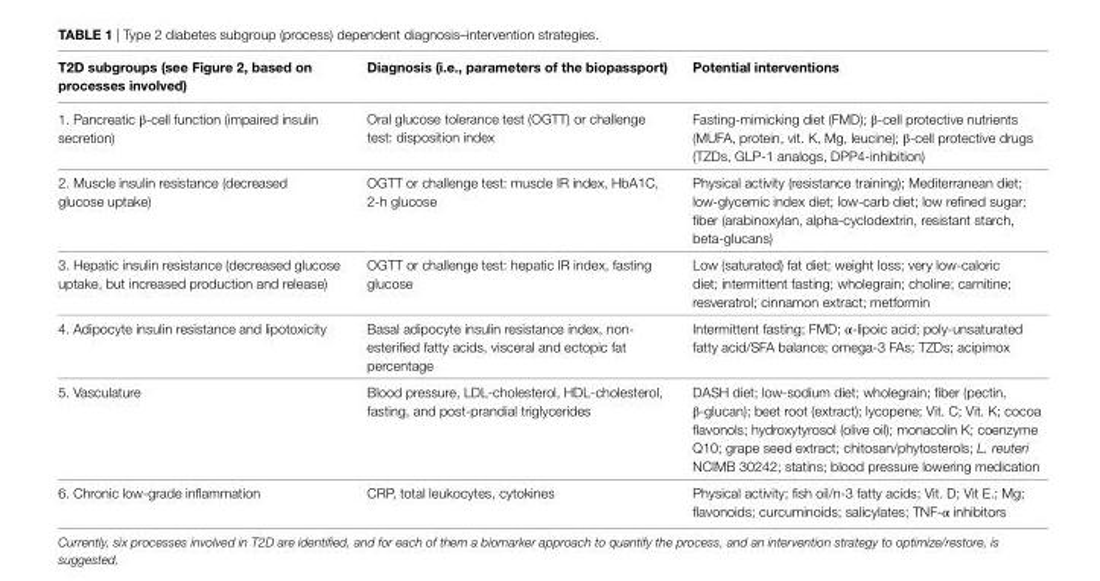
<table><thead><tr><td>T2D subgroups (see Figure 2, based on processes involved)</td><td>Diagnosis (i.e., parameters of the biopassport)</td><td>Potential interventions</td></tr></thead><tbody><tr><td>1. Pancreatic β-cell function (impaired insulin secretion)</td><td>Oral glucose tolerance test (OGTT) or challenge test: disposition index</td><td>Fasting-mimicking diet (FMD); β-cell protective nutrients (MUFA, protein, vit. K, Mg, leucine); β-cell protective drugs (TZDs, GLP-1 analogs, DPP4-inhibition)</td></tr><tr><td>2. Muscle insulin resistance (decreased glucose uptake)</td><td>OGTT or challenge test: muscle IR index, HbA1C, 2-h glucose</td><td>Physical activity (resistance training); Mediterranean diet; low-glycemic index diet; low-carb diet; low refined sugar; fiber (arabinoxylan, alpha-cyclodextrin, resistant starch, beta-glucans)</td></tr><tr><td>3. Hepatic insulin resistance (decreased glucose uptake, but increased production and release)</td><td>OGTT or challenge test: hepatic IR index, fasting glucose</td><td>Low (saturated) fat diet; weight loss; very low-caloric diet; intermittent fasting; wholegrain; choline; carnitine; resveratrol; cinnamon extract; metformin</td></tr><tr><td>4. Adipocyte insulin resistance and lipotoxicity</td><td>Basal adipocyte insulin resistance index, non- esterified fatty acids, visceral and ectopic fat percentage</td><td>Intermittent fasting; FMD; α-lipoic acid; poly-unsaturated fatty acid/SFA balance; omega-3 FAs; TZDs; acipimox</td></tr><tr><td>5. Vasculature</td><td>Blood pressure, LDL-cholesterol, HDL-cholesterol, fasting, and post-prandial triglycerides</td><td>DASH diet; low-sodium diet; wholegrain; fiber (pectin, β-glucan); beet root (extract); lycopene; Vit. C; Vit. K; cocoa flavonols; hydroxytyrosol (olive oil); monacolin K; coenzyme Q10; grape seed extract; chitosan/phytosterols; L. reuteri NCIMB 30242; statins; blood pressure lowering medication</td></tr><tr><td>6. Chronic low-grade inflammation</td><td>CRP, total leukocytes, cytokines</td><td>Physical activity; fish oil/n-3 fatty acids; Vit. D; Vit E.; Mg; flavonoids; curcuminoids; salicylates; TNF-α inhibitors</td></tr></tbody></table>